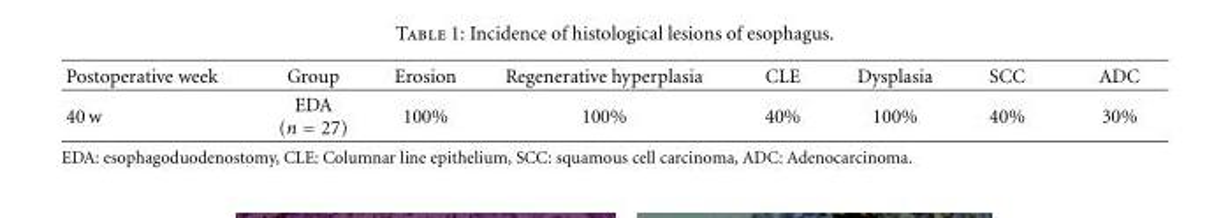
<table><thead><tr><td>Postoperative week</td><td>Group</td><td>Erosion</td><td>Regenerative hyperplasia</td><td>CLE</td><td>Dysplasia</td><td>SCC</td><td>ADC</td></tr></thead><tbody><tr><td>40 w</td><td>EDA (n = 27)</td><td>100%</td><td>100%</td><td>40%</td><td>100%</td><td>40%</td><td>30%</td></tr></tbody></table>